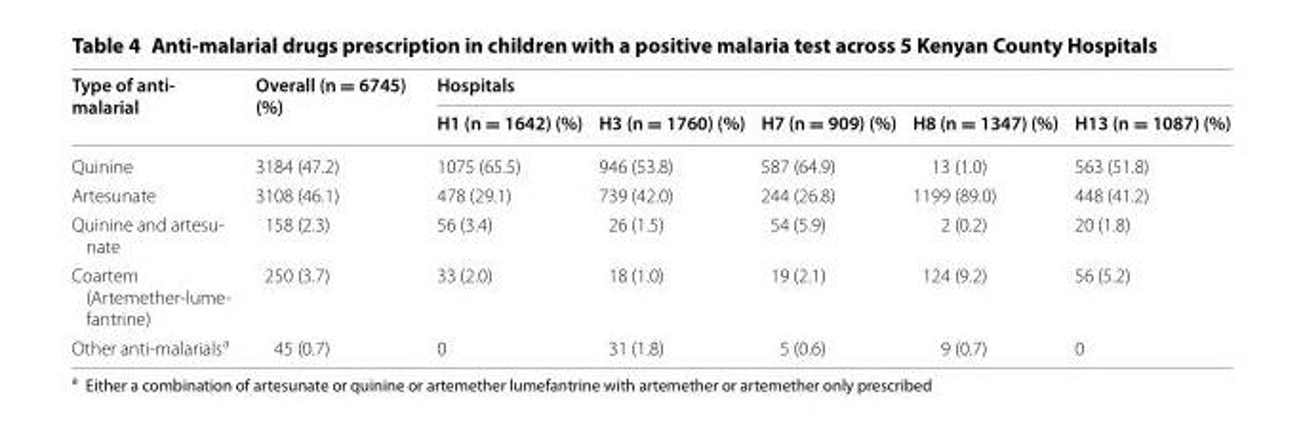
<table><thead><tr><td rowspan="2">Type of anti- malarial</td><td rowspan="2">Overall (n = 6745) (%)</td><td colspan="5">Hospitals</td></tr><tr><td>H1 (n = 1642) (%)</td><td>H3 (n = 1760) (%)</td><td>H7 (n = 909) (%)</td><td>H8 (n = 1347) (%)</td><td>H13 (n = 1087) (%)</td></tr></thead><tbody><tr><td>Quinine</td><td>3184 (47.2)</td><td>1075 (65.5)</td><td>946 (53.8)</td><td>587 (64.9)</td><td>13 (1.0)</td><td>563 (51.8)</td></tr><tr><td>Artesunate</td><td>3108 (46.1)</td><td>478 (29.1)</td><td>739 (42.0)</td><td>244 (26.8)</td><td>1199 (89.0)</td><td>448 (41.2)</td></tr><tr><td>Quinine and artesu- nate</td><td>158 (2.3)</td><td>56 (3.4)</td><td>26 (1.5)</td><td>54 (5.9)</td><td>2 (0.2)</td><td>20 (1.8)</td></tr><tr><td>Coartem (Artemether-lume- fantrine)</td><td>250 (3.7)</td><td>33 (2.0)</td><td>18 (1.0)</td><td>19 (2.1)</td><td>124 (9.2)</td><td>56 (5.2)</td></tr><tr><td>Other anti-malarials<sup>a</sup></td><td>45 (0.7)</td><td>0</td><td>31 (1.8)</td><td>5 (0.6)</td><td>9 (0.7)</td><td>0</td></tr></tbody></table>